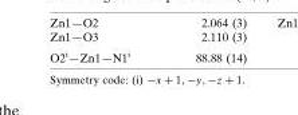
<table><tbody><tr><td>O2<sup>i</sup>—Zn1—N1<sup>i</sup></td><td>88.88 (14)</td></tr></tbody></table>